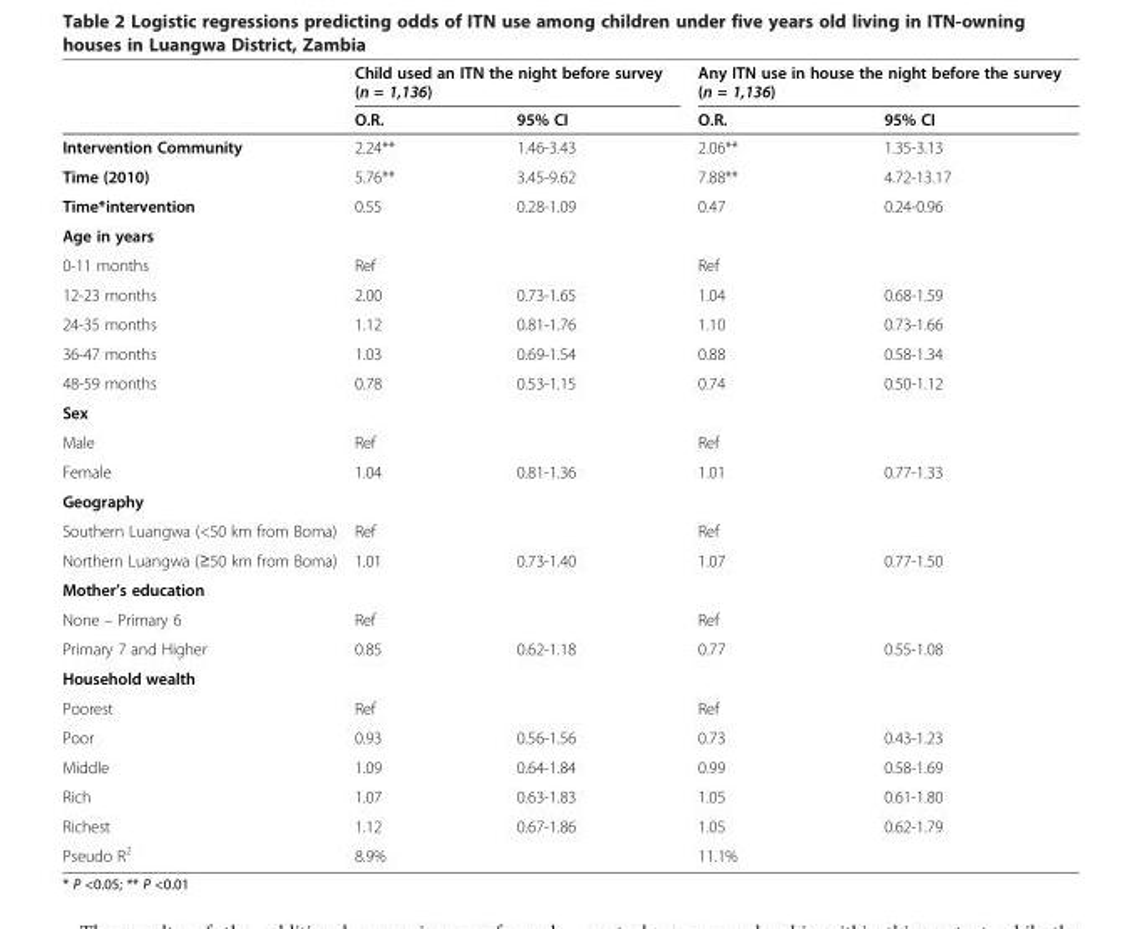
<table><thead><tr><td rowspan="2"></td><td colspan="2">Child used an ITN the night before survey (n = 1,136)</td><td colspan="2">Any ITN use in house the night before the survey (n = 1,136)</td></tr><tr><td>O.R.</td><td>95% CI</td><td>O.R.</td><td>95% CI</td></tr></thead><tbody><tr><td>Intervention Community</td><td>2.24**</td><td>1.46-3.43</td><td>2.06**</td><td>1.35-3.13</td></tr><tr><td>Time (2010)</td><td>5.76**</td><td>3.45-9.62</td><td>7.88**</td><td>4.72-13.17</td></tr><tr><td>Time*intervention</td><td>0.55</td><td>0.28-1.09</td><td>0.47</td><td>0.24-0.96</td></tr><tr><td colspan="5">Age in years</td></tr><tr><td>0-11 months</td><td>Ref</td><td></td><td>Ref</td><td></td></tr><tr><td>12-23 months</td><td>2.00</td><td>0.73-1.65</td><td>1.04</td><td>0.68-1.59</td></tr><tr><td>24-35 months</td><td>1.12</td><td>0.81-1.76</td><td>1.10</td><td>0.73-1.66</td></tr><tr><td>36-47 months</td><td>1.03</td><td>0.69-1.54</td><td>0.88</td><td>0.58-1.34</td></tr><tr><td>48-59 months</td><td>0.78</td><td>0.53-1.15</td><td>0.74</td><td>0.50-1.12</td></tr><tr><td colspan="5">Sex</td></tr><tr><td>Male</td><td>Ref</td><td></td><td>Ref</td><td></td></tr><tr><td>Female</td><td>1.04</td><td>0.81-1.36</td><td>1.01</td><td>0.77-1.33</td></tr><tr><td colspan="5">Geography</td></tr><tr><td>Southern Luangwa (&lt;50 km from Boma)</td><td>Ref</td><td></td><td>Ref</td><td></td></tr><tr><td>Northern Luangwa (≥50 km from Boma)</td><td>1.01</td><td>0.73-1.40</td><td>1.07</td><td>0.77-1.50</td></tr><tr><td colspan="5">Mother’s education</td></tr><tr><td>None – Primary 6</td><td>Ref</td><td></td><td>Ref</td><td></td></tr><tr><td>Primary 7 and Higher</td><td>0.85</td><td>0.62-1.18</td><td>0.77</td><td>0.55-1.08</td></tr><tr><td colspan="5">Household wealth</td></tr><tr><td>Poorest</td><td>Ref</td><td></td><td>Ref</td><td></td></tr><tr><td>Poor</td><td>0.93</td><td>0.56-1.56</td><td>0.73</td><td>0.43-1.23</td></tr><tr><td>Middle</td><td>1.09</td><td>0.64-1.84</td><td>0.99</td><td>0.58-1.69</td></tr><tr><td>Rich</td><td>1.07</td><td>0.63-1.83</td><td>1.05</td><td>0.61-1.80</td></tr><tr><td>Richest</td><td>1.12</td><td>0.67-1.86</td><td>1.05</td><td>0.62-1.79</td></tr><tr><td>Pseudo R<sup>2</sup></td><td>8.9%</td><td></td><td>11.1%</td><td></td></tr></tbody></table>